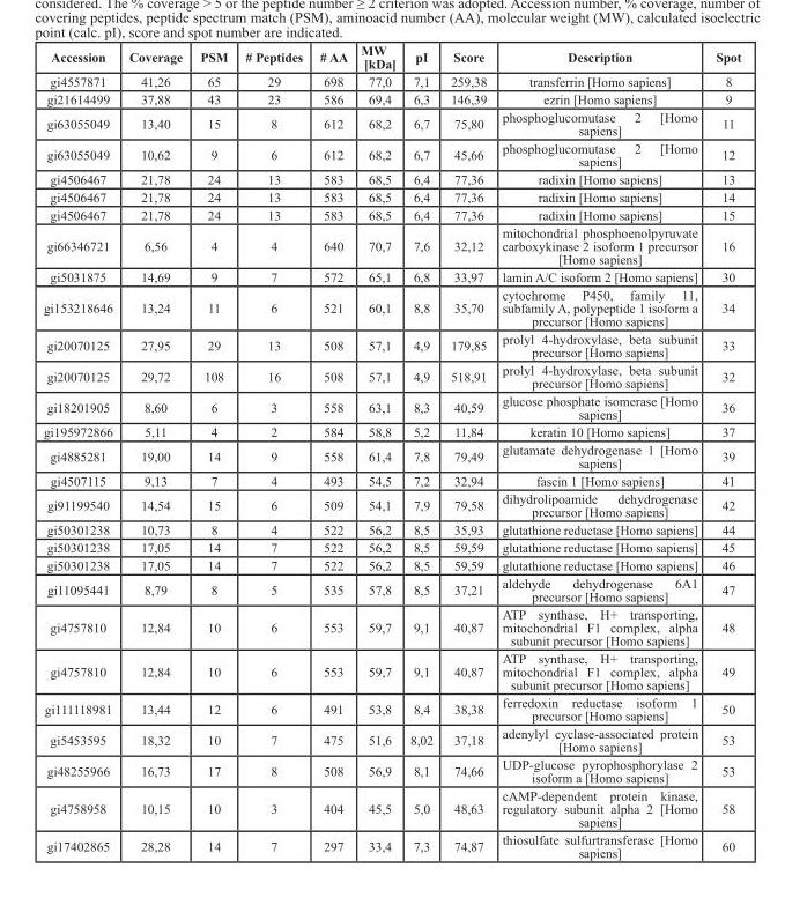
<table><thead><tr><td>Accession</td><td>Coverage</td><td>PSM</td><td># Peptides</td><td># AA</td><td>MW [kDa]</td><td>pI</td><td>Score</td><td>Description</td><td>Spot</td></tr></thead><tbody><tr><td>gi4557871</td><td>41,26</td><td>65</td><td>29</td><td>698</td><td>77,0</td><td>7,1</td><td>259,38</td><td>transferrin [Homo sapiens]</td><td>8</td></tr><tr><td>gi21614499</td><td>37,88</td><td>43</td><td>23</td><td>586</td><td>69,4</td><td>6,3</td><td>146,39</td><td>ezrin [Homo sapiens]</td><td>9</td></tr><tr><td>gi63055049</td><td>13,40</td><td>15</td><td>8</td><td>612</td><td>68,2</td><td>6,7</td><td>75,80</td><td>phosphoglucomutase 2 [Homo sapiens]</td><td>11</td></tr><tr><td>gi63055049</td><td>10,62</td><td>9</td><td>6</td><td>612</td><td>68,2</td><td>6,7</td><td>45,66</td><td>phosphoglucomutase 2 [Homo sapiens]</td><td>12</td></tr><tr><td>gi4506467</td><td>21,78</td><td>24</td><td>13</td><td>583</td><td>68,5</td><td>6,4</td><td>77,36</td><td>radixin [Homo sapiens]</td><td>13</td></tr><tr><td>gi4506467</td><td>21,78</td><td>24</td><td>13</td><td>583</td><td>68,5</td><td>6,4</td><td>77,36</td><td>radixin [Homo sapiens]</td><td>14</td></tr><tr><td>gi4506467</td><td>21,78</td><td>24</td><td>13</td><td>583</td><td>68,5</td><td>6,4</td><td>77,36</td><td>radixin [Homo sapiens]</td><td>15</td></tr><tr><td>gi66346721</td><td>6,56</td><td>4</td><td>4</td><td>640</td><td>70,7</td><td>7,6</td><td>32,12</td><td>mitochondrial phosphoenolpyruvate carboxykinase 2 isoform 1 precursor [Homo sapiens]</td><td>16</td></tr><tr><td>gi5031875</td><td>14,69</td><td>9</td><td>7</td><td>572</td><td>65,1</td><td>6,8</td><td>33,97</td><td>lamin A/C isoform 2 [Homo sapiens]</td><td>30</td></tr><tr><td>gi153218646</td><td>13,24</td><td>11</td><td>6</td><td>521</td><td>60,1</td><td>8,8</td><td>35,70</td><td>cytochrome P450, family 11, subfamily A, polypeptide 1 isoform a precursor [Homo sapiens]</td><td>34</td></tr><tr><td>gi20070125</td><td>27,95</td><td>29</td><td>13</td><td>508</td><td>57,1</td><td>4,9</td><td>179,85</td><td>prolyl 4-hydroxylase, beta subunit precursor [Homo sapiens]</td><td>33</td></tr><tr><td>gi20070125</td><td>29,72</td><td>108</td><td>16</td><td>508</td><td>57,1</td><td>4,9</td><td>518,91</td><td>prolyl 4-hydroxylase, beta subunit precursor [Homo sapiens]</td><td>32</td></tr><tr><td>gi18201905</td><td>8,60</td><td>6</td><td>3</td><td>558</td><td>63,1</td><td>8,3</td><td>40,59</td><td>glucose phosphate isomerase [Homo sapiens]</td><td>36</td></tr><tr><td>gi195972866</td><td>5,11</td><td>4</td><td>2</td><td>584</td><td>58,8</td><td>5,2</td><td>11,84</td><td>keratin 10 [Homo sapiens]</td><td>37</td></tr><tr><td>gi4885281</td><td>19,00</td><td>14</td><td>9</td><td>558</td><td>61,4</td><td>7,8</td><td>79,49</td><td>glutamate dehydrogenase 1 [Homo sapiens]</td><td>39</td></tr><tr><td>gi4507115</td><td>9,13</td><td>7</td><td>4</td><td>493</td><td>54,5</td><td>7,2</td><td>32,94</td><td>fascin 1 [Homo sapiens]</td><td>41</td></tr><tr><td>gi91199540</td><td>14,54</td><td>15</td><td>6</td><td>509</td><td>54,1</td><td>7,9</td><td>79,58</td><td>dihydrolipoamide dehydrogenase precursor [Homo sapiens]</td><td>42</td></tr><tr><td>gi50301238</td><td>10,73</td><td>8</td><td>4</td><td>522</td><td>56,2</td><td>8,5</td><td>35,93</td><td>glutathione reductase [Homo sapiens]</td><td>44</td></tr><tr><td>gi50301238</td><td>17,05</td><td>14</td><td>7</td><td>522</td><td>56,2</td><td>8,5</td><td>59,59</td><td>glutathione reductase [Homo sapiens]</td><td>45</td></tr><tr><td>gi50301238</td><td>17,05</td><td>14</td><td>7</td><td>522</td><td>56,2</td><td>8,5</td><td>59,59</td><td>glutathione reductase [Homo sapiens]</td><td>46</td></tr><tr><td>gi11095441</td><td>8,79</td><td>8</td><td>5</td><td>535</td><td>57,8</td><td>8,5</td><td>37,21</td><td>aldehyde dehydrogenase 6A1 precursor [Homo sapiens]</td><td>47</td></tr><tr><td>gi4757810</td><td>12,84</td><td>10</td><td>6</td><td>553</td><td>59,7</td><td>9,1</td><td>40,87</td><td>ATP synthase, H+ transporting, mitochondrial F1 complex, alpha subunit precursor [Homo sapiens]</td><td>48</td></tr><tr><td>gi4757810</td><td>12,84</td><td>10</td><td>6</td><td>553</td><td>59,7</td><td>9,1</td><td>40,87</td><td>ATP synthase, H+ transporting, mitochondrial F1 complex, alpha subunit precursor [Homo sapiens]</td><td>49</td></tr><tr><td>gi111118981</td><td>13,44</td><td>12</td><td>6</td><td>491</td><td>53,8</td><td>8,4</td><td>38,38</td><td>ferredoxin reductase isoform 1 precursor [Homo sapiens]</td><td>50</td></tr><tr><td>gi5453595</td><td>18,32</td><td>10</td><td>7</td><td>475</td><td>51,6</td><td>8,02</td><td>37,18</td><td>adenylyl cyclase-associated protein [Homo sapiens]</td><td>53</td></tr><tr><td>gi48255966</td><td>16,73</td><td>17</td><td>8</td><td>508</td><td>56,9</td><td>8,1</td><td>74,66</td><td>UDP-glucose pyrophosphorylase 2 isoform a [Homo sapiens]</td><td>53</td></tr><tr><td>gi4758958</td><td>10,15</td><td>10</td><td>3</td><td>404</td><td>45,5</td><td>5,0</td><td>48,63</td><td>cAMP-dependent protein kinase, regulatory subunit alpha 2 [Homo sapiens]</td><td>58</td></tr><tr><td>gi17402865</td><td>28,28</td><td>14</td><td>7</td><td>297</td><td>33,4</td><td>7,3</td><td>74,87</td><td>thiosulfate sulfurtransferase [Homo sapiens]</td><td>60</td></tr></tbody></table>